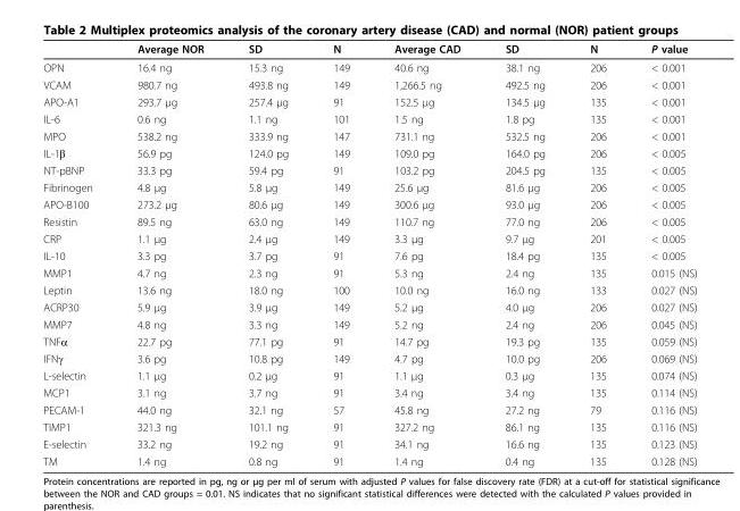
<table><thead><tr><td></td><td>Average NOR</td><td>SD</td><td>N</td><td>Average CAD</td><td>SD</td><td>N</td><td>P value</td></tr></thead><tbody><tr><td>OPN</td><td>16.4 ng</td><td>15.3 ng</td><td>149</td><td>40.6 ng</td><td>38.1 ng</td><td>206</td><td>&lt; 0.001</td></tr><tr><td>VCAM</td><td>980.7 ng</td><td>493.8 ng</td><td>149</td><td>1,266.5 ng</td><td>492.5 ng</td><td>206</td><td>&lt; 0.001</td></tr><tr><td>APO-A1</td><td>293.7 μg</td><td>257.4 μg</td><td>91</td><td>152.5 μg</td><td>134.5 μg</td><td>135</td><td>&lt; 0.001</td></tr><tr><td>IL-6</td><td>0.6 ng</td><td>1.1 ng</td><td>101</td><td>1.5 ng</td><td>1.8 pg</td><td>135</td><td>&lt; 0.001</td></tr><tr><td>MPO</td><td>538.2 ng</td><td>333.9 ng</td><td>147</td><td>731.1 ng</td><td>532.5 ng</td><td>206</td><td>&lt; 0.001</td></tr><tr><td>IL-1β</td><td>56.9 pg</td><td>124.0 pg</td><td>149</td><td>109.0 pg</td><td>164.0 pg</td><td>206</td><td>&lt; 0.005</td></tr><tr><td>NT-pBNP</td><td>33.3 pg</td><td>59.4 pg</td><td>91</td><td>103.2 pg</td><td>204.5 pg</td><td>135</td><td>&lt; 0.005</td></tr><tr><td>Fibrinogen</td><td>4.8 μg</td><td>5.8 μg</td><td>149</td><td>25.6 μg</td><td>81.6 μg</td><td>206</td><td>&lt; 0.005</td></tr><tr><td>APO-B100</td><td>273.2 μg</td><td>80.6 μg</td><td>149</td><td>300.6 μg</td><td>93.0 μg</td><td>206</td><td>&lt; 0.005</td></tr><tr><td>Resistin</td><td>89.5 ng</td><td>63.0 ng</td><td>149</td><td>110.7 ng</td><td>77.0 ng</td><td>206</td><td>&lt; 0.005</td></tr><tr><td>CRP</td><td>1.1 μg</td><td>2.4 μg</td><td>149</td><td>3.3 μg</td><td>9.7 μg</td><td>201</td><td>&lt; 0.005</td></tr><tr><td>IL-10</td><td>3.3 pg</td><td>3.7 pg</td><td>91</td><td>7.6 pg</td><td>18.4 pg</td><td>135</td><td>&lt; 0.005</td></tr><tr><td>MMP1</td><td>4.7 ng</td><td>2.3 ng</td><td>91</td><td>5.3 ng</td><td>2.4 ng</td><td>135</td><td>0.015 (NS)</td></tr><tr><td>Leptin</td><td>13.6 ng</td><td>18.0 ng</td><td>100</td><td>10.0 ng</td><td>16.0 ng</td><td>133</td><td>0.027 (NS)</td></tr><tr><td>ACRP30</td><td>5.9 μg</td><td>3.9 μg</td><td>149</td><td>5.2 μg</td><td>4.0 μg</td><td>206</td><td>0.027 (NS)</td></tr><tr><td>MMP7</td><td>4.8 ng</td><td>3.3 ng</td><td>149</td><td>5.2 ng</td><td>2.4 ng</td><td>206</td><td>0.045 (NS)</td></tr><tr><td>TNFα</td><td>22.7 pg</td><td>77.1 pg</td><td>91</td><td>14.7 pg</td><td>19.3 pg</td><td>135</td><td>0.059 (NS)</td></tr><tr><td>IFNγ</td><td>3.6 pg</td><td>10.8 pg</td><td>149</td><td>4.7 pg</td><td>10.0 pg</td><td>206</td><td>0.069 (NS)</td></tr><tr><td>L-selectin</td><td>1.1 μg</td><td>0.2 μg</td><td>91</td><td>1.1 μg</td><td>0.3 μg</td><td>135</td><td>0.074 (NS)</td></tr><tr><td>MCP1</td><td>3.1 ng</td><td>3.7 ng</td><td>91</td><td>3.4 ng</td><td>3.4 ng</td><td>135</td><td>0.114 (NS)</td></tr><tr><td>PECAM-1</td><td>44.0 ng</td><td>32.1 ng</td><td>57</td><td>45.8 ng</td><td>27.2 ng</td><td>79</td><td>0.116 (NS)</td></tr><tr><td>TIMP1</td><td>321.3 ng</td><td>101.1 ng</td><td>91</td><td>327.2 ng</td><td>86.1 ng</td><td>135</td><td>0.116 (NS)</td></tr><tr><td>E-selectin</td><td>33.2 ng</td><td>19.2 ng</td><td>91</td><td>34.1 ng</td><td>16.6 ng</td><td>135</td><td>0.123 (NS)</td></tr><tr><td>TM</td><td>1.4 ng</td><td>0.8 ng</td><td>91</td><td>1.4 ng</td><td>0.4 ng</td><td>135</td><td>0.128 (NS)</td></tr></tbody></table>